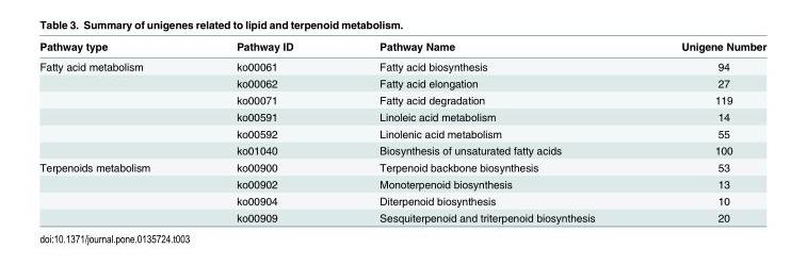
<table><thead><tr><td>Pathway type</td><td>Pathway ID</td><td>Pathway Name</td><td>Unigene Number</td></tr></thead><tbody><tr><td rowspan="6">Fatty acid metabolism</td><td>ko00061</td><td>Fatty acid biosynthesis</td><td>94</td></tr><tr><td>ko00062</td><td>Fatty acid elongation</td><td>27</td></tr><tr><td>ko00071</td><td>Fatty acid degradation</td><td>119</td></tr><tr><td>ko00591</td><td>Linoleic acid metabolism</td><td>14</td></tr><tr><td>ko00592</td><td>Linolenic acid metabolism</td><td>55</td></tr><tr><td>ko01040</td><td>Biosynthesis of unsaturated fatty acids</td><td>100</td></tr><tr><td rowspan="4">Terpenoids metabolism</td><td>ko00900</td><td>Terpenoid backbone biosynthesis</td><td>53</td></tr><tr><td>ko00902</td><td>Monoterpenoid biosynthesis</td><td>13</td></tr><tr><td>ko00904</td><td>Diterpenoid biosynthesis</td><td>10</td></tr><tr><td>ko00909</td><td>Sesquiterpenoid and triterpenoid biosynthesis</td><td>20</td></tr></tbody></table>